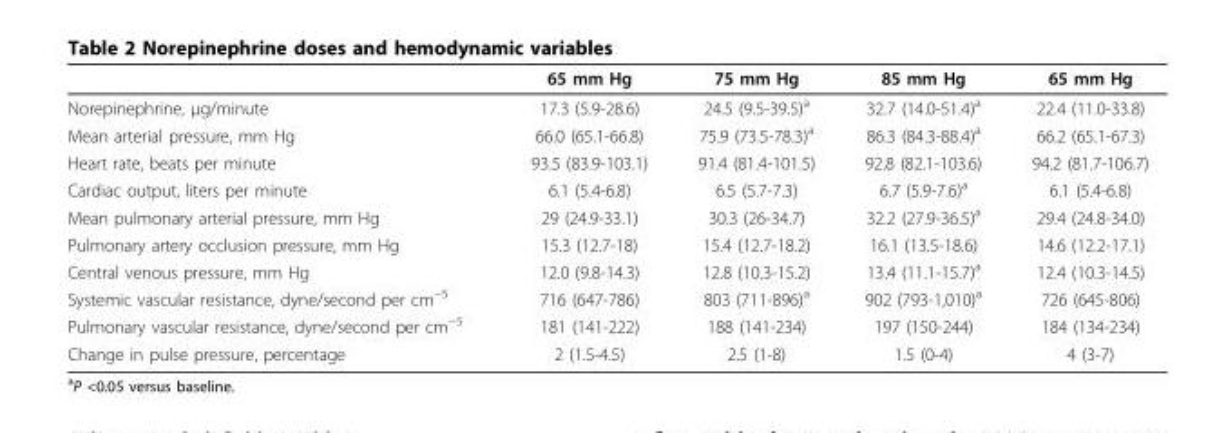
<table><thead><tr><td></td><td>65 mm Hg</td><td>75 mm Hg</td><td>85 mm Hg</td><td>65 mm Hg</td></tr></thead><tbody><tr><td>Norepinephrine, μg/minute</td><td>17.3 (5.9-28.6)</td><td>24.5 (9.5-39.5)<sup>a</sup></td><td>32.7 (14.0-51.4)<sup>a</sup></td><td>22.4 (11.0-33.8)</td></tr><tr><td>Mean arterial pressure, mm Hg</td><td>66.0 (65.1-66.8)</td><td>75.9 (73.5-78.3)<sup>a</sup></td><td>86.3 (84.3-88.4)<sup>a</sup></td><td>66.2 (65.1-67.3)</td></tr><tr><td>Heart rate, beats per minute</td><td>93.5 (83.9-103.1)</td><td>91.4 (81.4-101.5)</td><td>92.8 (82.1-103.6)</td><td>94.2 (81.7-106.7)</td></tr><tr><td>Cardiac output, liters per minute</td><td>6.1 (5.4-6.8)</td><td>6.5 (5.7-7.3)</td><td>6.7 (5.9-7.6)<sup>a</sup></td><td>6.1 (5.4-6.8)</td></tr><tr><td>Mean pulmonary arterial pressure, mm Hg</td><td>29 (24.9-33.1)</td><td>30.3 (26-34.7)</td><td>32.2 (27.9-36.5)<sup>a</sup></td><td>29.4 (24.8-34.0)</td></tr><tr><td>Pulmonary artery occlusion pressure, mm Hg</td><td>15.3 (12.7-18)</td><td>15.4 (12.7-18.2)</td><td>16.1 (13.5-18.6)</td><td>14.6 (12.2-17.1)</td></tr><tr><td>Central venous pressure, mm Hg</td><td>12.0 (9.8-14.3)</td><td>12.8 (10.3-15.2)</td><td>13.4 (11.1-15.7)<sup>a</sup></td><td>12.4 (10.3-14.5)</td></tr><tr><td>Systemic vascular resistance, dyne/second per cm<sup>−5</sup></td><td>716 (647-786)</td><td>803 (711-896)<sup>a</sup></td><td>902 (793-1,010)<sup>a</sup></td><td>726 (645-806)</td></tr><tr><td>Pulmonary vascular resistance, dyne/second per cm<sup>−5</sup></td><td>181 (141-222)</td><td>188 (141-234)</td><td>197 (150-244)</td><td>184 (134-234)</td></tr><tr><td>Change in pulse pressure, percentage</td><td>2 (1.5-4.5)</td><td>2.5 (1-8)</td><td>1.5 (0-4)</td><td>4 (3-7)</td></tr></tbody></table>